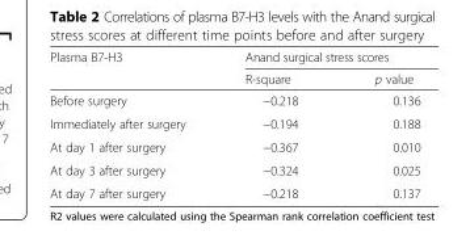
<table><thead><tr><td rowspan="2">Plasma B7-H3</td><td colspan="2">Anand surgical stress scores</td></tr><tr><td>R-square</td><td>p value</td></tr></thead><tbody><tr><td>Before surgery</td><td>−0.218</td><td>0.136</td></tr><tr><td>Immediately after surgery</td><td>−0.194</td><td>0.188</td></tr><tr><td>At day 1 after surgery</td><td>−0.367</td><td>0.010</td></tr><tr><td>At day 3 after surgery</td><td>−0.324</td><td>0.025</td></tr><tr><td>At day 7 after surgery</td><td>−0.218</td><td>0.137</td></tr></tbody></table>